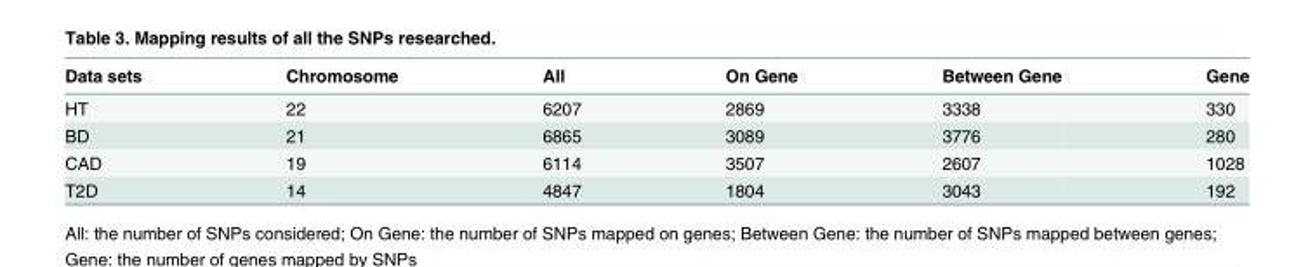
<table><thead><tr><td>Data sets</td><td>Chromosome</td><td>All</td><td>On Gene</td><td>Between Gene</td><td>Gene</td></tr></thead><tbody><tr><td>HT</td><td>22</td><td>6207</td><td>2869</td><td>3338</td><td>330</td></tr><tr><td>BD</td><td>21</td><td>6865</td><td>3089</td><td>3776</td><td>280</td></tr><tr><td>CAD</td><td>19</td><td>6114</td><td>3507</td><td>2607</td><td>1028</td></tr><tr><td>T2D</td><td>14</td><td>4847</td><td>1804</td><td>3043</td><td>192</td></tr></tbody></table>